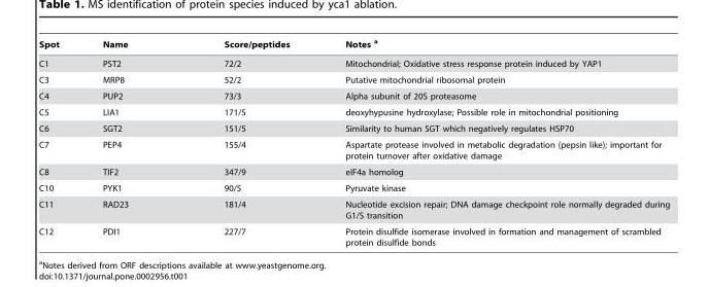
<table><thead><tr><td>Spot</td><td>Name</td><td>Score/peptides</td><td>Notes a</td></tr></thead><tbody><tr><td>C1</td><td>PST2</td><td>72/2</td><td>Mitochondrial; Oxidative stress response protein induced by YAP1</td></tr><tr><td>C3</td><td>MRP8</td><td>52/2</td><td>Putative mitochondrial ribosomal protein</td></tr><tr><td>C4</td><td>PUP2</td><td>73/3</td><td>Alpha subunit of 20S proteasome</td></tr><tr><td>C5</td><td>LIA1</td><td>171/5</td><td>deoxyhypusine hydroxylase; Possible role in mitochondrial positioning</td></tr><tr><td>C6</td><td>SGT2</td><td>151/5</td><td>Similarity to human SGT which negatively regulates HSP70</td></tr><tr><td>C7</td><td>PEP4</td><td>155/4</td><td>Aspartate protease involved in metabolic degradation (pepsin like); important for protein turnover after oxidative damage</td></tr><tr><td>C8</td><td>TIF2</td><td>347/9</td><td>eIF4a homolog</td></tr><tr><td>C10</td><td>PYK1</td><td>90/5</td><td>Pyruvate kinase</td></tr><tr><td>C11</td><td>RAD23</td><td>181/4</td><td>Nucleotide excision repair; DNA damage checkpoint role normally degraded during G1/S transition</td></tr><tr><td>C12</td><td>PDI1</td><td>227/7</td><td>Protein disulfide isomerase involved in formation and management of scrambled protein disulfide bonds</td></tr></tbody></table>